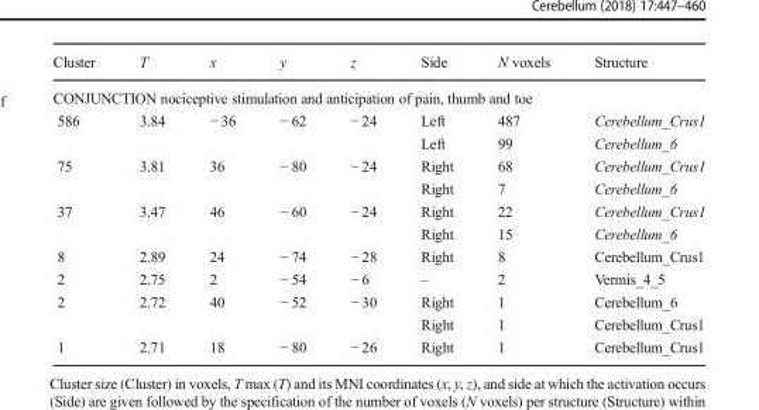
<table><thead><tr><td>Cluster</td><td>T</td><td>x</td><td>y</td><td>z</td><td>Side</td><td>N voxels</td><td>Structure</td></tr></thead><tbody><tr><td colspan="8">CONJUNCTION nociceptive stimulation and anticipation of pain, thumb and toe</td></tr><tr><td rowspan="2">586</td><td>3.84</td><td>− 36</td><td>− 62</td><td>− 24</td><td>Left</td><td>487</td><td>Cerebellum_Crus1</td></tr><tr><td></td><td></td><td></td><td></td><td>Left</td><td>99</td><td>Cerebellum_6</td></tr><tr><td rowspan="2">75</td><td>3.81</td><td>36</td><td>− 80</td><td>− 24</td><td>Right</td><td>68</td><td>Cerebellum_Crus1</td></tr><tr><td></td><td></td><td></td><td></td><td>Right</td><td>7</td><td>Cerebellum_6</td></tr><tr><td rowspan="2">37</td><td>3.47</td><td>46</td><td>− 60</td><td>− 24</td><td>Right</td><td>22</td><td>Cerebellum_Crus1</td></tr><tr><td></td><td></td><td></td><td></td><td>Right</td><td>15</td><td>Cerebellum_6</td></tr><tr><td>8</td><td>2.89</td><td>24</td><td>− 74</td><td>− 28</td><td>Right</td><td>8</td><td>Cerebellum_Crus1</td></tr><tr><td>2</td><td>2.75</td><td>2</td><td>− 54</td><td>− 6</td><td>–</td><td>2</td><td>Vermis_4_5</td></tr><tr><td rowspan="2">2</td><td>2.72</td><td>40</td><td>− 52</td><td>− 30</td><td>Right</td><td>1</td><td>Cerebellum_6</td></tr><tr><td></td><td></td><td></td><td></td><td>Right</td><td>1</td><td>Cerebellum_Crus1</td></tr><tr><td>1</td><td>2.71</td><td>18</td><td>− 80</td><td>− 26</td><td>Right</td><td>1</td><td>Cerebellum_Crus1</td></tr></tbody></table>